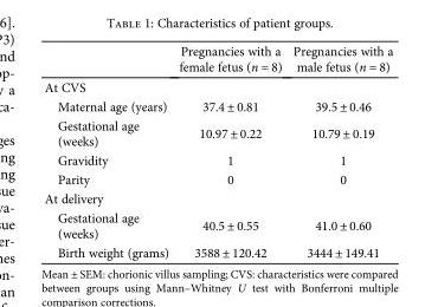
<table><thead><tr><td></td><td>Pregnancies with a female fetus (n = 8)</td><td>Pregnancies with a male fetus (n = 8)</td></tr></thead><tbody><tr><td colspan="3">At CVS</td></tr><tr><td>Maternal age (years)</td><td>37.4 ± 0.81</td><td>39.5 ± 0.46</td></tr><tr><td>Gestational age (weeks)</td><td>10.97 ± 0.22</td><td>10.79 ± 0.19</td></tr><tr><td>Gravidity</td><td>1</td><td>1</td></tr><tr><td>Parity</td><td>0</td><td>0</td></tr><tr><td colspan="3">At delivery</td></tr><tr><td>Gestational age (weeks)</td><td>40.5 ± 0.55</td><td>41.0 ± 0.60</td></tr><tr><td>Birth weight (grams)</td><td>3588 ± 120.42</td><td>3444 ± 149.41</td></tr></tbody></table>